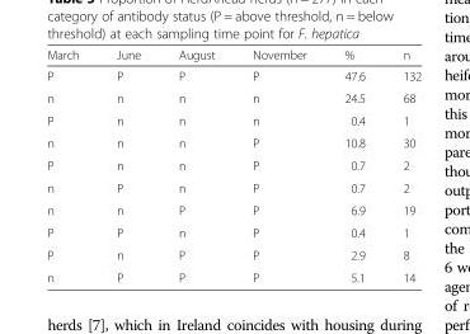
<table><thead><tr><td>March</td><td>June</td><td>August</td><td>November</td><td>%</td><td>n</td></tr></thead><tbody><tr><td>P</td><td>P</td><td>P</td><td>P</td><td>47.6</td><td>132</td></tr><tr><td>n</td><td>n</td><td>n</td><td>n</td><td>24.5</td><td>68</td></tr><tr><td>P</td><td>n</td><td>n</td><td>n</td><td>0.4</td><td>1</td></tr><tr><td>n</td><td>n</td><td>n</td><td>P</td><td>10.8</td><td>30</td></tr><tr><td>P</td><td>n</td><td>n</td><td>P</td><td>0.7</td><td>2</td></tr><tr><td>n</td><td>P</td><td>n</td><td>P</td><td>0.7</td><td>2</td></tr><tr><td>n</td><td>n</td><td>P</td><td>P</td><td>6.9</td><td>19</td></tr><tr><td>P</td><td>P</td><td>n</td><td>P</td><td>0.4</td><td>1</td></tr><tr><td>P</td><td>n</td><td>P</td><td>P</td><td>2.9</td><td>8</td></tr><tr><td>n</td><td>P</td><td>P</td><td>P</td><td>5.1</td><td>14</td></tr></tbody></table>